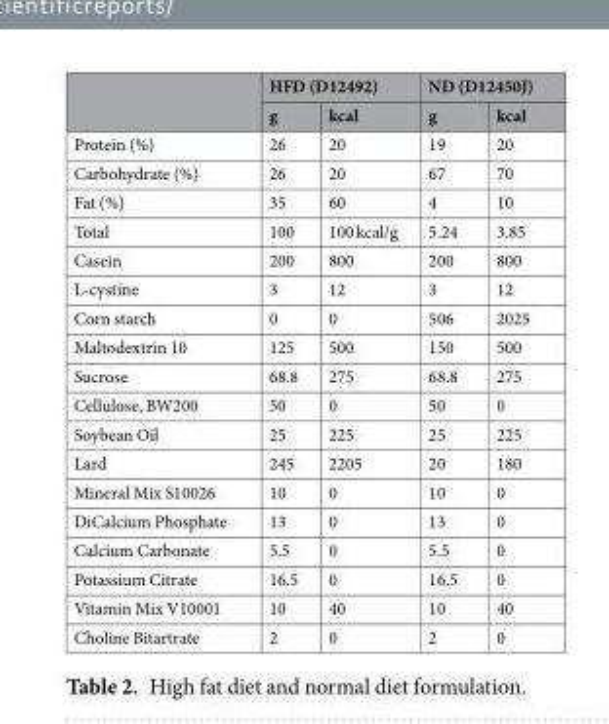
<table><thead><tr><td rowspan="2"></td><td colspan="2">HFD (D12492)</td><td colspan="2">ND (D12450J)</td></tr><tr><td>g</td><td>kcal</td><td>g</td><td>kcal</td></tr></thead><tbody><tr><td>Protein (%)</td><td>26</td><td>20</td><td>19</td><td>20</td></tr><tr><td>Carbohydrate (%)</td><td>26</td><td>20</td><td>67</td><td>70</td></tr><tr><td>Fat (%)</td><td>35</td><td>60</td><td>4</td><td>10</td></tr><tr><td>Total</td><td>100</td><td>100 kcal/g</td><td>5.24</td><td>3.85</td></tr><tr><td>Casein</td><td>200</td><td>800</td><td>200</td><td>800</td></tr><tr><td>L-cystine</td><td>3</td><td>12</td><td>3</td><td>12</td></tr><tr><td>Corn starch</td><td>0</td><td>0</td><td>506</td><td>2025</td></tr><tr><td>Maltodextrin 10</td><td>125</td><td>500</td><td>150</td><td>500</td></tr><tr><td>Sucrose</td><td>68.8</td><td>275</td><td>68.8</td><td>275</td></tr><tr><td>Cellulose, BW200</td><td>50</td><td>0</td><td>50</td><td>0</td></tr><tr><td>Soybean Oil</td><td>25</td><td>225</td><td>25</td><td>225</td></tr><tr><td>Lard</td><td>245</td><td>2205</td><td>20</td><td>180</td></tr><tr><td>Mineral Mix S10026</td><td>10</td><td>0</td><td>10</td><td>0</td></tr><tr><td>DiCalcium Phosphate</td><td>13</td><td>0</td><td>13</td><td>0</td></tr><tr><td>Calcium Carbonate</td><td>5.5</td><td>0</td><td>5.5</td><td>0</td></tr><tr><td>Potassium Citrate</td><td>16.5</td><td>0</td><td>16.5</td><td>0</td></tr><tr><td>Vitamin Mix V10001</td><td>10</td><td>40</td><td>10</td><td>40</td></tr><tr><td>Choline Bitartrate</td><td>2</td><td>0</td><td>2</td><td>0</td></tr></tbody></table>